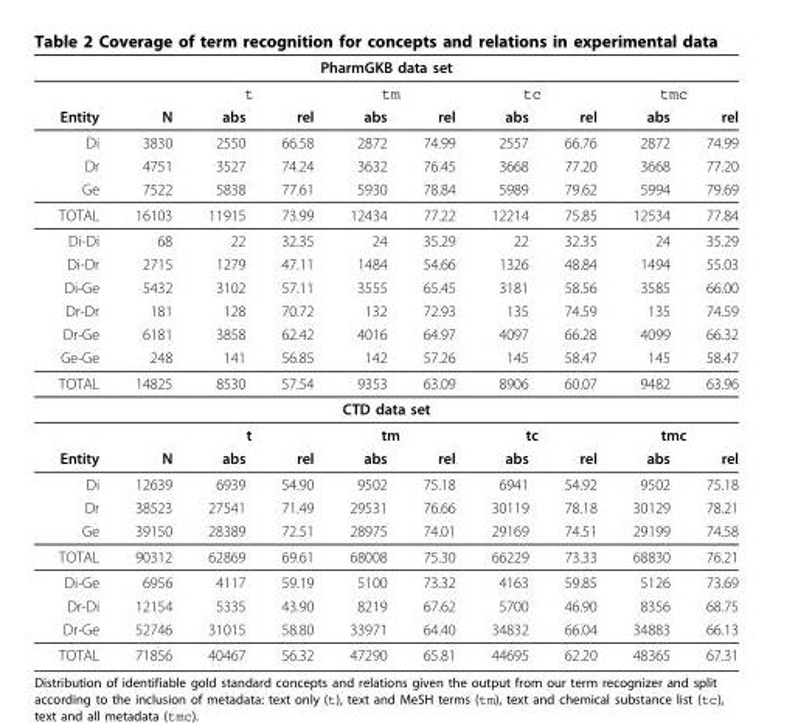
<table><thead><tr><td colspan="10">PharmGKB data set</td></tr><tr><td rowspan="2">Entity</td><td rowspan="2">N</td><td colspan="2">t</td><td colspan="2">tm</td><td colspan="2">tc</td><td colspan="2">tmc</td></tr><tr><td>abs</td><td>rel</td><td>abs</td><td>rel</td><td>abs</td><td>rel</td><td>abs</td><td>rel</td></tr></thead><tbody><tr><td>Di</td><td>3830</td><td>2550</td><td>66.58</td><td>2872</td><td>74.99</td><td>2557</td><td>66.76</td><td>2872</td><td>74.99</td></tr><tr><td>Dr</td><td>4751</td><td>3527</td><td>74.24</td><td>3632</td><td>76.45</td><td>3668</td><td>77.20</td><td>3668</td><td>77.20</td></tr><tr><td>Ge</td><td>7522</td><td>5838</td><td>77.61</td><td>5930</td><td>78.84</td><td>5989</td><td>79.62</td><td>5994</td><td>79.69</td></tr><tr><td>TOTAL</td><td>16103</td><td>11915</td><td>73.99</td><td>12434</td><td>77.22</td><td>12214</td><td>75.85</td><td>12534</td><td>77.84</td></tr><tr><td>Di-Di</td><td>68</td><td>22</td><td>32.35</td><td>24</td><td>35.29</td><td>22</td><td>32.35</td><td>24</td><td>35.29</td></tr><tr><td>Di-Dr</td><td>2715</td><td>1279</td><td>47.11</td><td>1484</td><td>54.66</td><td>1326</td><td>48.84</td><td>1494</td><td>55.03</td></tr><tr><td>Di-Ge</td><td>5432</td><td>3102</td><td>57.11</td><td>3555</td><td>65.45</td><td>3181</td><td>58.56</td><td>3585</td><td>66.00</td></tr><tr><td>Dr-Dr</td><td>181</td><td>128</td><td>70.72</td><td>132</td><td>72.93</td><td>135</td><td>74.59</td><td>135</td><td>74.59</td></tr><tr><td>Dr-Ge</td><td>6181</td><td>3858</td><td>62.42</td><td>4016</td><td>64.97</td><td>4097</td><td>66.28</td><td>4099</td><td>66.32</td></tr><tr><td>Ge-Ge</td><td>248</td><td>141</td><td>56.85</td><td>142</td><td>57.26</td><td>145</td><td>58.47</td><td>145</td><td>58.47</td></tr><tr><td>TOTAL</td><td>14825</td><td>8530</td><td>57.54</td><td>9353</td><td>63.09</td><td>8906</td><td>60.07</td><td>9482</td><td>63.96</td></tr><tr><td colspan="10">CTD data set</td></tr><tr><td></td><td></td><td colspan="2">t</td><td colspan="2">tm</td><td colspan="2">tc</td><td colspan="2">tmc</td></tr><tr><td>Entity</td><td>N</td><td>abs</td><td>rel</td><td>abs</td><td>rel</td><td>abs</td><td>rel</td><td>abs</td><td>rel</td></tr><tr><td>Di</td><td>12639</td><td>6939</td><td>54.90</td><td>9502</td><td>75.18</td><td>6941</td><td>54.92</td><td>9502</td><td>75.18</td></tr><tr><td>Dr</td><td>38523</td><td>27541</td><td>71.49</td><td>29531</td><td>76.66</td><td>30119</td><td>78.18</td><td>30129</td><td>78.21</td></tr><tr><td>Ge</td><td>39150</td><td>28389</td><td>72.51</td><td>28975</td><td>74.01</td><td>29169</td><td>74.51</td><td>29199</td><td>74.58</td></tr><tr><td>TOTAL</td><td>90312</td><td>62869</td><td>69.61</td><td>68008</td><td>75.30</td><td>66229</td><td>73.33</td><td>68830</td><td>76.21</td></tr><tr><td>Di-Ge</td><td>6956</td><td>4117</td><td>59.19</td><td>5100</td><td>73.32</td><td>4163</td><td>59.85</td><td>5126</td><td>73.69</td></tr><tr><td>Dr-Di</td><td>12154</td><td>5335</td><td>43.90</td><td>8219</td><td>67.62</td><td>5700</td><td>46.90</td><td>8356</td><td>68.75</td></tr><tr><td>Dr-Ge</td><td>52746</td><td>31015</td><td>58.80</td><td>33971</td><td>64.40</td><td>34832</td><td>66.04</td><td>34883</td><td>66.13</td></tr><tr><td>TOTAL</td><td>71856</td><td>40467</td><td>56.32</td><td>47290</td><td>65.81</td><td>44695</td><td>62.20</td><td>48365</td><td>67.31</td></tr></tbody></table>